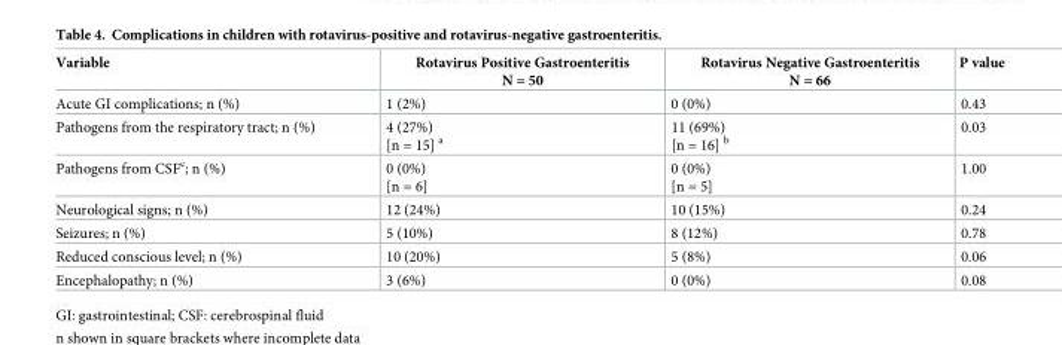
<table><thead><tr><td>Variable</td><td>Rotavirus Positive Gastroenteritis N = 50</td><td>Rotavirus Negative Gastroenteritis N = 66</td><td>P value</td></tr></thead><tbody><tr><td>Acute GI complications; n (%)</td><td>1 (2%)</td><td>0 (0%)</td><td>0.43</td></tr><tr><td>Pathogens from the respiratory tract; n (%)</td><td>4 (27%) [n = 15] <sup>a</sup></td><td>11 (69%) [n = 16] <sup>b</sup></td><td>0.03</td></tr><tr><td>Pathogens from CSF<sup>c</sup>; n (%)</td><td>0 (0%) [n = 6]</td><td>0 (0%) [n = 5]</td><td>1.00</td></tr><tr><td>Neurological signs; n (%)</td><td>12 (24%)</td><td>10 (15%)</td><td>0.24</td></tr><tr><td>Seizures; n (%)</td><td>5 (10%)</td><td>8 (12%)</td><td>0.78</td></tr><tr><td>Reduced conscious level; n (%)</td><td>10 (20%)</td><td>5 (8%)</td><td>0.06</td></tr><tr><td>Encephalopathy; n (%)</td><td>3 (6%)</td><td>0 (0%)</td><td>0.08</td></tr></tbody></table>